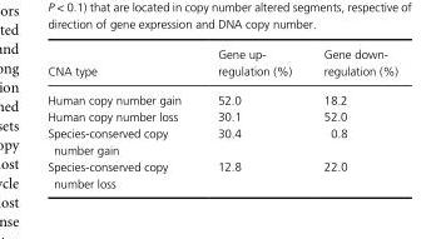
<table><thead><tr><td>CNA type</td><td>Gene up- regulation (%)</td><td>Gene down- regulation (%)</td></tr></thead><tbody><tr><td>Human copy number gain</td><td>52.0</td><td>18.2</td></tr><tr><td>Human copy number loss</td><td>30.1</td><td>52.0</td></tr><tr><td>Species- conserved copy number gain</td><td>30.4</td><td>0.8</td></tr><tr><td>Species- conserved copy number loss</td><td>12.8</td><td>22.0</td></tr></tbody></table>